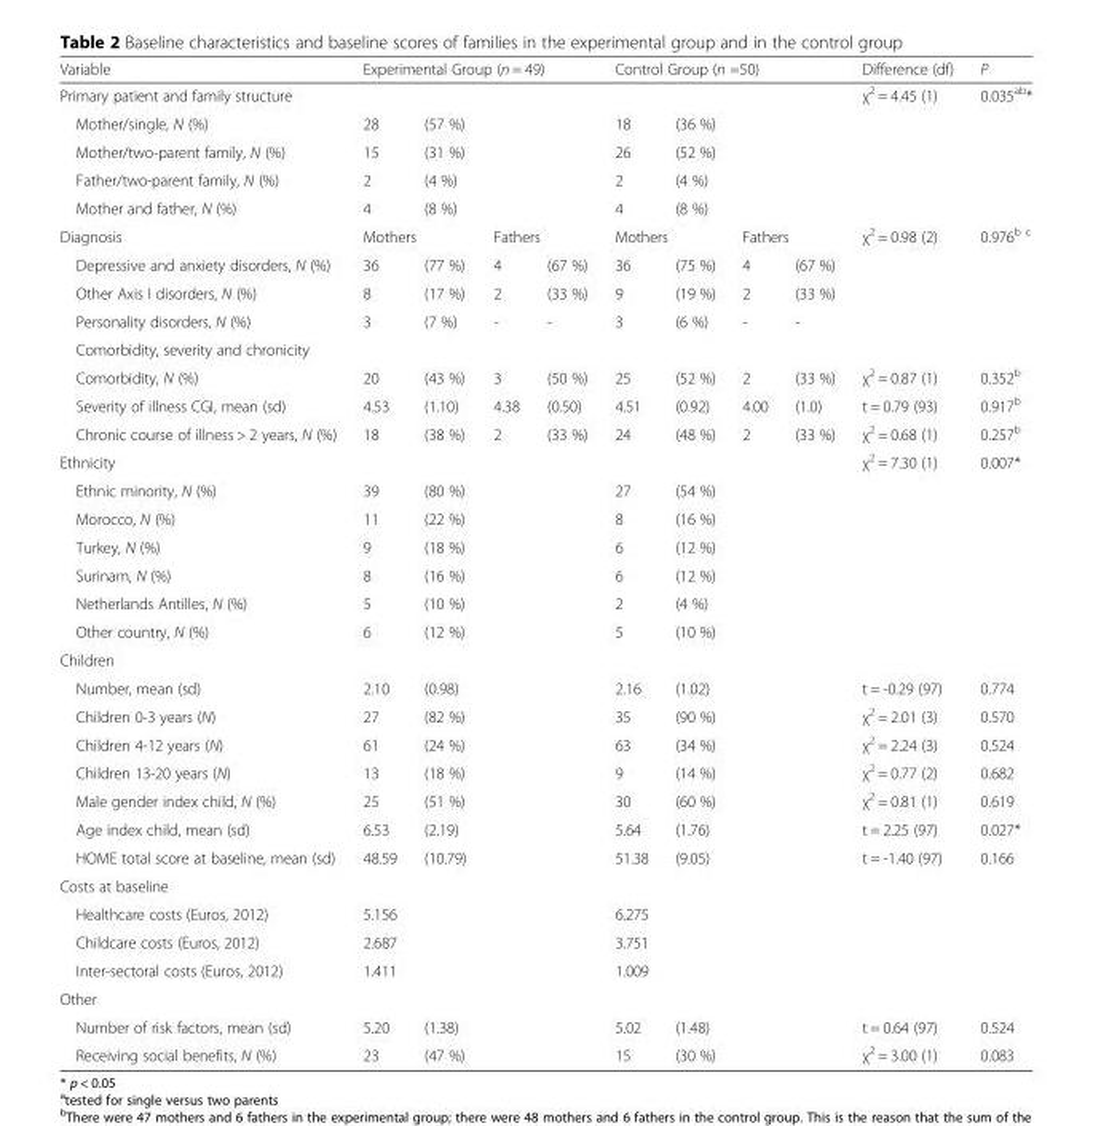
<table><thead><tr><td rowspan="2">Variable Primary patient and family structure</td><td colspan="4">Experimental Group (n = 49)</td><td colspan="4">Control Group (n =50)</td><td rowspan="2">Difference (df) χ<sup>2</sup> = 4.45 (1)</td><td rowspan="2">P 0.035<sup>ab</sup>*</td></tr><tr><td></td><td></td><td></td><td></td><td></td><td></td><td></td><td></td></tr></thead><tbody><tr><td>Mother/single, N (%)</td><td>28</td><td>(57 %)</td><td></td><td></td><td>18</td><td>(36 %)</td><td></td><td></td><td></td><td></td></tr><tr><td>Mother/two-parent family, N (%)</td><td>15</td><td>(31 %)</td><td></td><td></td><td>26</td><td>(52 %)</td><td></td><td></td><td></td><td></td></tr><tr><td>Father/two-parent family, N (%)</td><td>2</td><td>(4 %)</td><td></td><td></td><td>2</td><td>(4 %)</td><td></td><td></td><td></td><td></td></tr><tr><td>Mother and father, N (%)</td><td>4</td><td>(8 %)</td><td></td><td></td><td>4</td><td>(8 %)</td><td></td><td></td><td></td><td></td></tr><tr><td>Diagnosis</td><td colspan="2">Mothers</td><td colspan="2">Fathers</td><td colspan="2">Mothers</td><td colspan="2">Fathers</td><td>χ<sup>2</sup> = 0.98 (2)</td><td>0.976<sup>b c</sup></td></tr><tr><td>Depressive and anxiety disorders, N (%)</td><td>36</td><td>(77 %)</td><td>4</td><td>(67 %)</td><td>36</td><td>(75 %)</td><td>4</td><td>(67 %)</td><td></td><td></td></tr><tr><td>Other Axis I disorders, N (%)</td><td>8</td><td>(17 %)</td><td>2</td><td>(33 %)</td><td>9</td><td>(19 %)</td><td>2</td><td>(33 %)</td><td></td><td></td></tr><tr><td>Personality disorders, N (%)</td><td>3</td><td>(7 %)</td><td>-</td><td>-</td><td>3</td><td>(6 %)</td><td>-</td><td>-</td><td></td><td></td></tr><tr><td colspan="11">Comorbidity, severity and chronicity</td></tr><tr><td>Comorbidity, N (%)</td><td>20</td><td>(43 %)</td><td>3</td><td>(50 %)</td><td>25</td><td>(52 %)</td><td>2</td><td>(33 %)</td><td>χ<sup>2</sup> = 0.87 (1)</td><td>0.352<sup>b</sup></td></tr><tr><td>Severity of illness CGI, mean (sd)</td><td>4.53</td><td>(1.10)</td><td>4.38</td><td>(0.50)</td><td>4.51</td><td>(0.92)</td><td>4.00</td><td>(1.0)</td><td>t = 0.79 (93)</td><td>0.917<sup>b</sup></td></tr><tr><td>Chronic course of illness &gt; 2 years, N (%)</td><td>18</td><td>(38 %)</td><td>2</td><td>(33 %)</td><td>24</td><td>(48 %)</td><td>2</td><td>(33 %)</td><td>χ<sup>2</sup> = 0.68 (1)</td><td>0.257<sup>b</sup></td></tr><tr><td>Ethnicity</td><td></td><td></td><td></td><td></td><td></td><td></td><td></td><td></td><td>χ<sup>2</sup> = 7.30 (1)</td><td>0.007*</td></tr><tr><td>Ethnic minority, N (%)</td><td>39</td><td>(80 %)</td><td></td><td></td><td>27</td><td>(54 %)</td><td></td><td></td><td></td><td></td></tr><tr><td>Morocco, N (%)</td><td>11</td><td>(22 %)</td><td></td><td></td><td>8</td><td>(16 %)</td><td></td><td></td><td></td><td></td></tr><tr><td>Turkey, N (%)</td><td>9</td><td>(18 %)</td><td></td><td></td><td>6</td><td>(12 %)</td><td></td><td></td><td></td><td></td></tr><tr><td>Surinam, N (%)</td><td>8</td><td>(16 %)</td><td></td><td></td><td>6</td><td>(12 %)</td><td></td><td></td><td></td><td></td></tr><tr><td>Netherlands Antilles, N (%)</td><td>5</td><td>(10 %)</td><td></td><td></td><td>2</td><td>(4 %)</td><td></td><td></td><td></td><td></td></tr><tr><td>Other country, N (%)</td><td>6</td><td>(12 %)</td><td></td><td></td><td>5</td><td>(10 %)</td><td></td><td></td><td></td><td></td></tr><tr><td colspan="11">Children</td></tr><tr><td>Number, mean (sd)</td><td>2.10</td><td>(0.98)</td><td></td><td></td><td>2.16</td><td>(1.02)</td><td></td><td></td><td>t = -0.29 (97)</td><td>0.774</td></tr><tr><td>Children 0-3 years (N)</td><td>27</td><td>(82 %)</td><td></td><td></td><td>35</td><td>(90 %)</td><td></td><td></td><td>χ<sup>2</sup> = 2.01 (3)</td><td>0.570</td></tr><tr><td>Children 4-12 years (N)</td><td>61</td><td>(24 %)</td><td></td><td></td><td>63</td><td>(34 %)</td><td></td><td></td><td>χ<sup>2</sup> = 2.24 (3)</td><td>0.524</td></tr><tr><td>Children 13-20 years (N)</td><td>13</td><td>(18 %)</td><td></td><td></td><td>9</td><td>(14 %)</td><td></td><td></td><td>χ<sup>2</sup> = 0.77 (2)</td><td>0.682</td></tr><tr><td>Male gender index child, N (%)</td><td>25</td><td>(51 %)</td><td></td><td></td><td>30</td><td>(60 %)</td><td></td><td></td><td>χ<sup>2</sup> = 0.81 (1)</td><td>0.619</td></tr><tr><td>Age index child, mean (sd)</td><td>6.53</td><td>(2.19)</td><td></td><td></td><td>5.64</td><td>(1.76)</td><td></td><td></td><td>t = 2.25 (97)</td><td>0.027*</td></tr><tr><td>HOME total score at baseline, mean (sd)</td><td>48.59</td><td>(10.79)</td><td></td><td></td><td>51.38</td><td>(9.05)</td><td></td><td></td><td>t = -1.40 (97)</td><td>0.166</td></tr><tr><td colspan="11">Costs at baseline</td></tr><tr><td>Healthcare costs (Euros, 2012)</td><td>5.156</td><td></td><td></td><td></td><td>6.275</td><td></td><td></td><td></td><td></td><td></td></tr><tr><td>Childcare costs (Euros, 2012)</td><td>2.687</td><td></td><td></td><td></td><td>3.751</td><td></td><td></td><td></td><td></td><td></td></tr><tr><td>Inter-sectoral costs (Euros, 2012)</td><td>1.411</td><td></td><td></td><td></td><td>1.009</td><td></td><td></td><td></td><td></td><td></td></tr><tr><td colspan="11">Other</td></tr><tr><td>Number of risk factors, mean (sd)</td><td>5.20</td><td>(1.38)</td><td></td><td></td><td>5.02</td><td>(1.48)</td><td></td><td></td><td>t = 0.64 (97)</td><td>0.524</td></tr><tr><td>Receiving social benefits, N (%)</td><td>23</td><td>(47 %)</td><td></td><td></td><td>15</td><td>(30 %)</td><td></td><td></td><td>χ<sup>2</sup> = 3.00 (1)</td><td>0.083</td></tr></tbody></table>